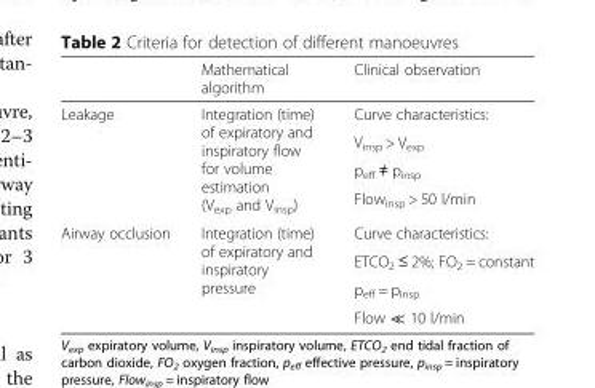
<table><thead><tr><td></td><td>Mathematical algorithm</td><td>Clinical observation</td></tr></thead><tbody><tr><td rowspan="4">Leakage</td><td rowspan="4">Integration (time) of expiratory and inspiratory flow for volume estimation (V<sub>exp</sub> and V<sub>insp</sub>)</td><td>Curve characteristics:</td></tr><tr><td>V<sub>insp</sub> &gt; V<sub>exp</sub></td></tr><tr><td>p<sub>eff</sub> ≠ p<sub>insp</sub></td></tr><tr><td>Flow<sub>insp</sub> &gt; 50 l/min</td></tr><tr><td rowspan="4">Airway occlusion</td><td rowspan="4">Integration (time) of expiratory and inspiratory pressure</td><td>Curve characteristics:</td></tr><tr><td>ETCO<sub>2</sub> ≤ 2%; FO<sub>2</sub> = constant</td></tr><tr><td>p<sub>eff</sub> = p<sub>insp</sub></td></tr><tr><td>Flow ≪ 10 l/min</td></tr></tbody></table>